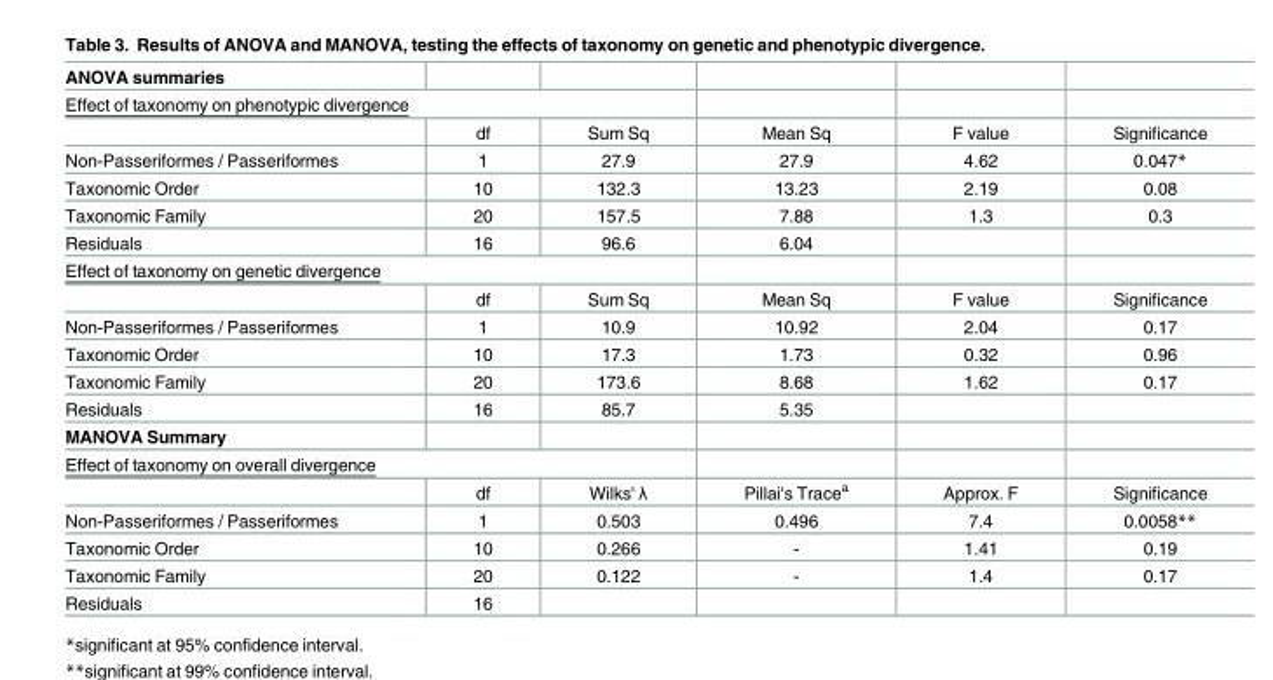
<table><tbody><tr><td colspan="6">ANOVA summaries</td></tr><tr><td colspan="6">Effect of taxonomy on phenotypic divergence</td></tr><tr><td></td><td>df</td><td>Sum Sq</td><td>Mean Sq</td><td>F value</td><td>Significance</td></tr><tr><td>Non-Passeriformes / Passeriformes</td><td>1</td><td>27.9</td><td>27.9</td><td>4.62</td><td>0.047*</td></tr><tr><td>Taxonomic Order</td><td>10</td><td>132.3</td><td>13.23</td><td>2.19</td><td>0.08</td></tr><tr><td>Taxonomic Family</td><td>20</td><td>157.5</td><td>7.88</td><td>1.3</td><td>0.3</td></tr><tr><td>Residuals</td><td>16</td><td>96.6</td><td>6.04</td><td></td><td></td></tr><tr><td colspan="6">Effect of taxonomy on genetic divergence</td></tr><tr><td></td><td>df</td><td>Sum Sq</td><td>Mean Sq</td><td>F value</td><td>Significance</td></tr><tr><td>Non-Passeriformes / Passeriformes</td><td>1</td><td>10.9</td><td>10.92</td><td>2.04</td><td>0.17</td></tr><tr><td>Taxonomic Order</td><td>10</td><td>17.3</td><td>1.73</td><td>0.32</td><td>0.96</td></tr><tr><td>Taxonomic Family</td><td>20</td><td>173.6</td><td>8.68</td><td>1.62</td><td>0.17</td></tr><tr><td>Residuals</td><td>16</td><td>85.7</td><td>5.35</td><td></td><td></td></tr><tr><td colspan="6">MANOVA Summary</td></tr><tr><td colspan="6">Effect of taxonomy on overall divergence</td></tr><tr><td></td><td>df</td><td>Wilks&#x27; λ</td><td>Pillai&#x27;s Trace<sup>a</sup></td><td>Approx. F</td><td>Significance</td></tr><tr><td>Non-Passeriformes / Passeriformes</td><td>1</td><td>0.503</td><td>0.496</td><td>7.4</td><td>0.0058**</td></tr><tr><td>Taxonomic Order</td><td>10</td><td>0.266</td><td>-</td><td>1.41</td><td>0.19</td></tr><tr><td>Taxonomic Family</td><td>20</td><td>0.122</td><td>-</td><td>1.4</td><td>0.17</td></tr><tr><td>Residuals</td><td>16</td><td></td><td></td><td></td><td></td></tr></tbody></table>